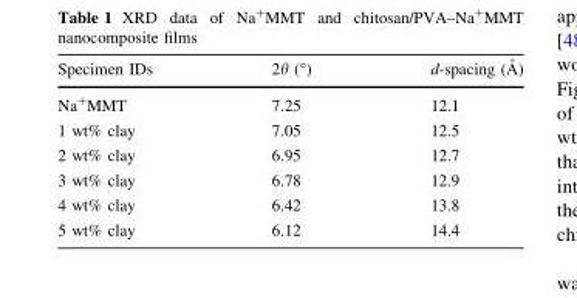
<table><thead><tr><td>Specimen IDs</td><td>2θ (°)</td><td>d-spacing (A˚</td></tr></thead><tbody><tr><td>Na<sup>+</sup>MMT</td><td>7.25</td><td>12.1</td></tr><tr><td>1 wt% clay</td><td>7.05</td><td>12.5</td></tr><tr><td>2 wt% clay</td><td>6.95</td><td>12.7</td></tr><tr><td>3 wt% clay</td><td>6.78</td><td>12.9</td></tr><tr><td>4 wt% clay</td><td>6.42</td><td>13.8</td></tr><tr><td>5 wt% clay</td><td>6.12</td><td>14.4</td></tr></tbody></table>